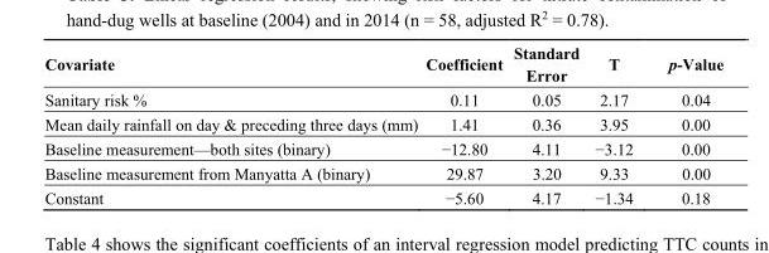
<table><thead><tr><td>Covariate</td><td>Coefficient</td><td>Standard Error</td><td>T</td><td>p-Value</td></tr></thead><tbody><tr><td>Sanitary risk %</td><td>0.11</td><td>0.05</td><td>2.17</td><td>0.04</td></tr><tr><td>Mean daily rainfall on day &amp; preceding three days (mm)</td><td>1.41</td><td>0.36</td><td>3.95</td><td>0.00</td></tr><tr><td>Baseline measurement—both sites (binary)</td><td>−12.80</td><td>4.11</td><td>−3.12</td><td>0.00</td></tr><tr><td>Baseline measurement from Manyatta A (binary)</td><td>29.87</td><td>3.20</td><td>9.33</td><td>0.00</td></tr><tr><td>Constant</td><td>−5.60</td><td>4.17</td><td>−1.34</td><td>0.18</td></tr></tbody></table>